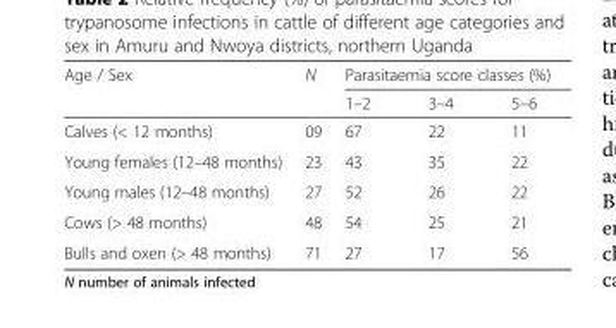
<table><thead><tr><td rowspan="2">Age / Sex</td><td rowspan="2">N</td><td colspan="3">Parasitaemia score classes (%)</td></tr><tr><td>1–2</td><td>3–4</td><td>5–6</td></tr></thead><tbody><tr><td>Calves (&lt; 12 months)</td><td>09</td><td>67</td><td>22</td><td>11</td></tr><tr><td>Young females (12–48 months)</td><td>23</td><td>43</td><td>35</td><td>22</td></tr><tr><td>Young males (12–48 months)</td><td>27</td><td>52</td><td>26</td><td>22</td></tr><tr><td>Cows (&gt; 48 months)</td><td>48</td><td>54</td><td>25</td><td>21</td></tr><tr><td>Bulls and oxen (&gt; 48 months)</td><td>71</td><td>27</td><td>17</td><td>56</td></tr></tbody></table>